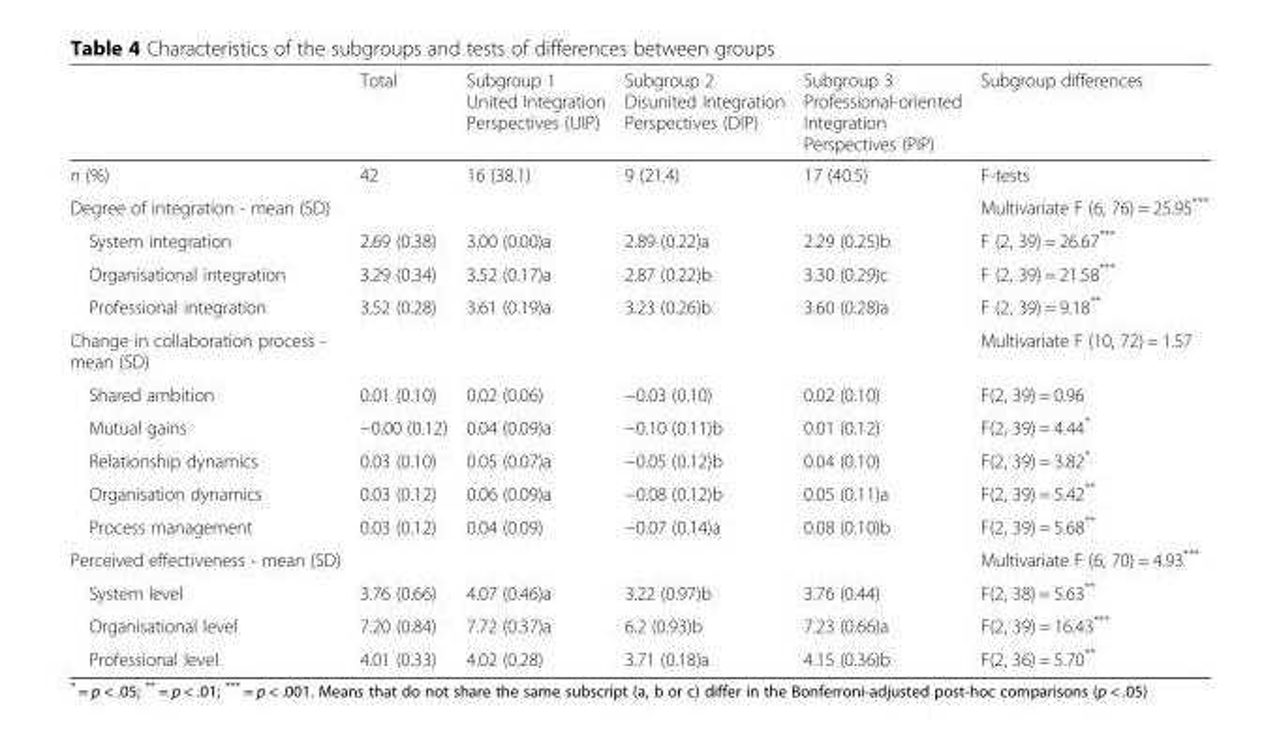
<table><thead><tr><td></td><td>Total</td><td>Subgroup 1 United Integration Perspectives (UIP)</td><td>Subgroup 2 Disunited Integration Perspectives (DIP)</td><td>Subgroup 3 Professional-oriented Integration Perspectives (PIP)</td><td>Subgroup differences</td></tr></thead><tbody><tr><td>n (%)</td><td>42</td><td>16 (38.1)</td><td>9 (21.4)</td><td>17 (40.5)</td><td>F-tests</td></tr><tr><td>Degree of integration - mean (SD)</td><td></td><td></td><td></td><td></td><td>Multivariate F (6, 76) = 25.95***</td></tr><tr><td>System integration</td><td>2.69 (0.38)</td><td>3.00 (0.00)a</td><td>2.89 (0.22)a</td><td>2.29 (0.25)b</td><td>F (2, 39) = 26.67***</td></tr><tr><td>Organisational integration</td><td>3.29 (0.34)</td><td>3.52 (0.17)a</td><td>2.87 (0.22)b</td><td>3.30 (0.29)c</td><td>F (2, 39) = 21.58***</td></tr><tr><td>Professional integration</td><td>3.52 (0.28)</td><td>3.61 (0.19)a</td><td>3.23 (0.26)b</td><td>3.60 (0.28)a</td><td>F (2, 39) = 9.18**</td></tr><tr><td>Change in collaboration process - mean (SD)</td><td></td><td></td><td></td><td></td><td>Multivariate F (10, 72) = 1.57</td></tr><tr><td>Shared ambition</td><td>0.01 (0.10)</td><td>0.02 (0.06)</td><td>−0.03 (0.10)</td><td>0.02 (0.10)</td><td>F(2, 39) = 0.96</td></tr><tr><td>Mutual gains</td><td>−0.00 (0.12)</td><td>0.04 (0.09)a</td><td>−0.10 (0.11)b</td><td>0.01 (0.12)</td><td>F(2, 39) = 4.44*</td></tr><tr><td>Relationship dynamics</td><td>0.03 (0.10)</td><td>0.05 (0.07)a</td><td>−0.05 (0.12)b</td><td>0.04 (0.10)</td><td>F(2, 39) = 3.82*</td></tr><tr><td>Organisation dynamics</td><td>0.03 (0.12)</td><td>0.06 (0.09)a</td><td>−0.08 (0.12)b</td><td>0.05 (0.11)a</td><td>F(2, 39) = 5.42**</td></tr><tr><td>Process management</td><td>0.03 (0.12)</td><td>0.04 (0.09)</td><td>−0.07 (0.14)a</td><td>0.08 (0.10)b</td><td>F(2, 39) = 5.68**</td></tr><tr><td>Perceived effectiveness - mean (SD)</td><td></td><td></td><td></td><td></td><td>Multivariate F (6, 70) = 4.93***</td></tr><tr><td>System level</td><td>3.76 (0.66)</td><td>4.07 (0.46)a</td><td>3.22 (0.97)b</td><td>3.76 (0.44)</td><td>F(2, 38) = 5.63**</td></tr><tr><td>Organisational level</td><td>7.20 (0.84)</td><td>7.72 (0.37)a</td><td>6.2 (0.93)b</td><td>7.23 (0.66)a</td><td>F(2, 39) = 16.43***</td></tr><tr><td>Professional level</td><td>4.01 (0.33)</td><td>4.02 (0.28)</td><td>3.71 (0.18)a</td><td>4.15 (0.36)b</td><td>F(2, 36) = 5.70**</td></tr></tbody></table>